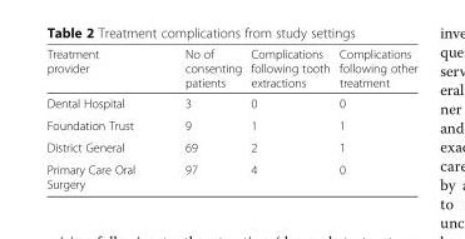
<table><thead><tr><td>Treatment provider</td><td>No of consenting patients</td><td>Complications following tooth extractions</td><td>Complications following other treatment</td></tr></thead><tbody><tr><td>Dental Hospital</td><td>3</td><td>0</td><td>0</td></tr><tr><td>Foundation Trust</td><td>9</td><td>1</td><td>1</td></tr><tr><td>District General</td><td>69</td><td>2</td><td>1</td></tr><tr><td>Primary Care Oral Surgery</td><td>97</td><td>4</td><td>0</td></tr></tbody></table>